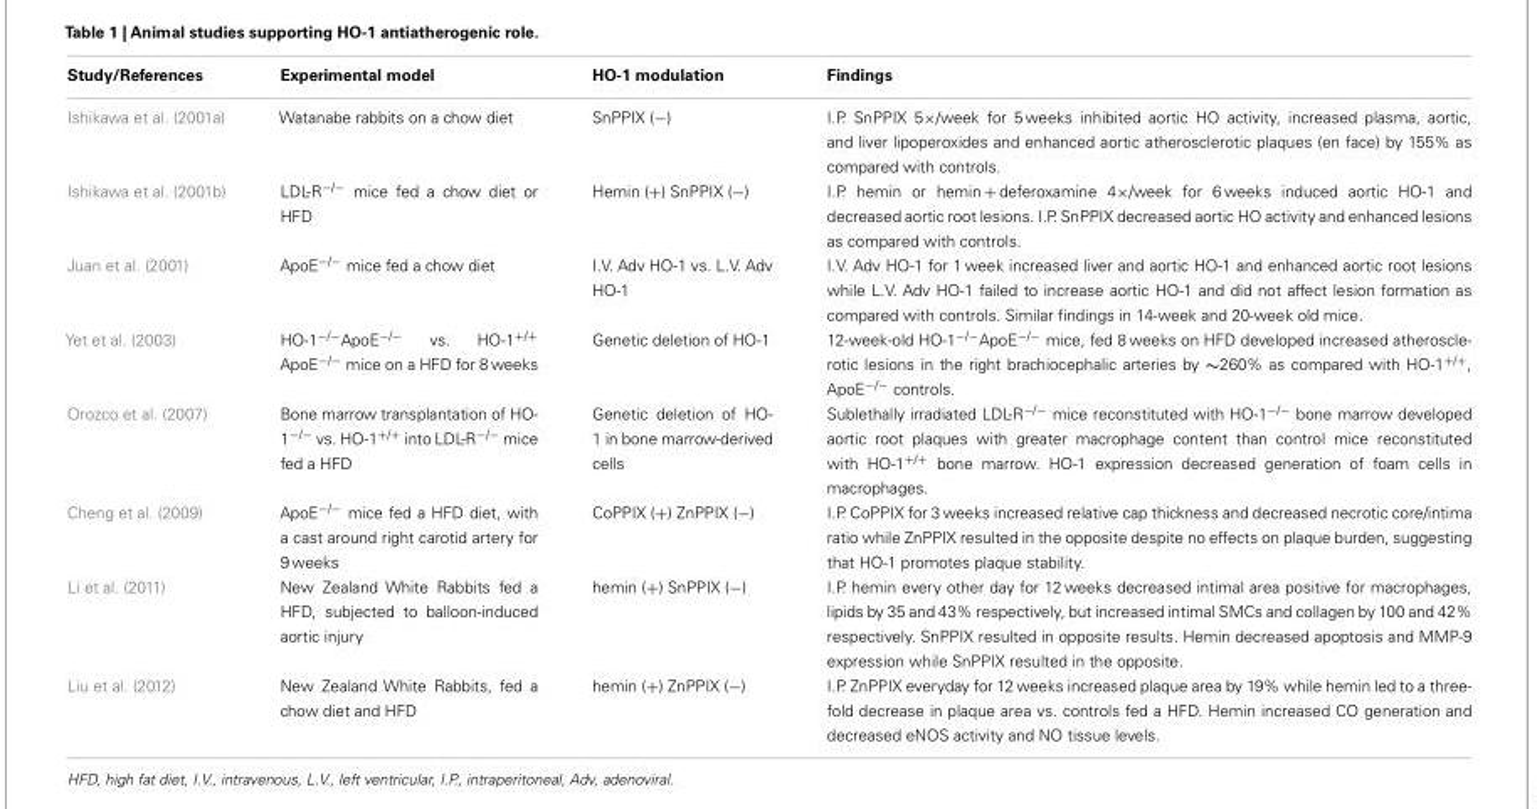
<table><thead><tr><td>Study/References</td><td>Experimental model</td><td>HO-1 modulation</td><td>Findings</td></tr></thead><tbody><tr><td>Ishikawa et al. (2001a)</td><td>Watanabe rabbits on a chow diet</td><td>SnPPIX (−)</td><td>I.P. SnPPIX 5×/week for 5 weeks inhibited aortic HO activity, increased plasma, aortic, and liver lipoperoxides and enhanced aortic atherosclerotic plaques (en face) by 155% as compared with controls.</td></tr><tr><td>Ishikawa et al. (2001b)</td><td>LDL-R<sup>−/−</sup> mice fed a chow diet or HFD</td><td>Hemin (+) SnPPIX (−)</td><td>I.P. hemin or hemin + deferoxamine 4×/week for 6 weeks induced aortic HO-1 and decreased aortic root lesions. I.P. SnPPIX decreased aortic HO activity and enhanced lesions as compared with controls.</td></tr><tr><td>Juan et al. (2001)</td><td>ApoE<sup>−/−</sup> mice fed a chow diet</td><td>I.V. Adv HO-1 vs. L.V. Adv HO-1</td><td>I.V. Adv HO-1 for 1 week increased liver and aortic HO-1 and enhanced aortic root lesions while L.V. Adv HO-1 failed to increase aortic HO-1 and did not affect lesion formation as compared with controls. Similar findings in 14-week and 20-week old mice.</td></tr><tr><td>Yet et al. (2003)</td><td>HO-1<sup>−/−</sup>ApoE<sup>−/−</sup> vs. HO-1<sup>+/+</sup> ApoE<sup>−/−</sup> mice on a HFD for 8 weeks</td><td>Genetic deletion of HO-1</td><td>12-week-old HO-1−/−ApoE−/− mice, fed 8 weeks on HFD developed increased atheroscle- rotic lesions in the right brachiocephalic arteries by ∼260% as compared with HO-1+/+, ApoE−/− controls.</td></tr><tr><td>Orozco et al. (2007)</td><td>Bone marrow transplantation of HO- 1<sup>−/−</sup> vs. HO-1<sup>+/+</sup> into LDL-R<sup>−/−</sup> mice fed a HFD</td><td>Genetic deletion of HO- 1 in bone marrow-derived cells</td><td>Sublethally irradiated LDL-R<sup>−/−</sup> mice reconstituted with HO-1<sup>−/−</sup> bone marrow developed aortic root plaques with greater macrophage content than control mice reconstituted with HO-1<sup>+/+</sup> bone marrow. HO-1 expression decreased generation of foam cells in macrophages.</td></tr><tr><td>Cheng et al. (2009)</td><td>ApoE<sup>−/−</sup> mice fed a HFD diet, with a cast around right carotid artery for 9 weeks</td><td>CoPPIX (+) ZnPPIX (−)</td><td>I.P. CoPPIX for 3 weeks increased relative cap thickness and decreased necrotic core/intima ratio while ZnPPIX resulted in the opposite despite no effects on plaque burden, suggesting that HO-1 promotes plaque stability.</td></tr><tr><td>Li et al. (2011)</td><td>New Zealand White Rabbits fed a HFD, subjected to balloon-induced aortic injury</td><td>hemin (+) SnPPIX (−)</td><td>I.P. hemin every other day for 12 weeks decreased intimal area positive for macrophages, lipids by 35 and 43% respectively, but increased intimal SMCs and collagen by 100 and 42% respectively. SnPPIX resulted in opposite results. Hemin decreased apoptosis and MMP-9 expression while SnPPIX resulted in the opposite.</td></tr><tr><td>Liu et al. (2012)</td><td>New Zealand White Rabbits, fed a chow diet and HFD</td><td>hemin (+) ZnPPIX (−)</td><td>I.P. ZnPPIX everyday for 12 weeks increased plaque area by 19% while hemin led to a three- fold decrease in plaque area vs. controls fed a HFD. Hemin increased CO generation and decreased eNOS activity and NO tissue levels.</td></tr></tbody></table>